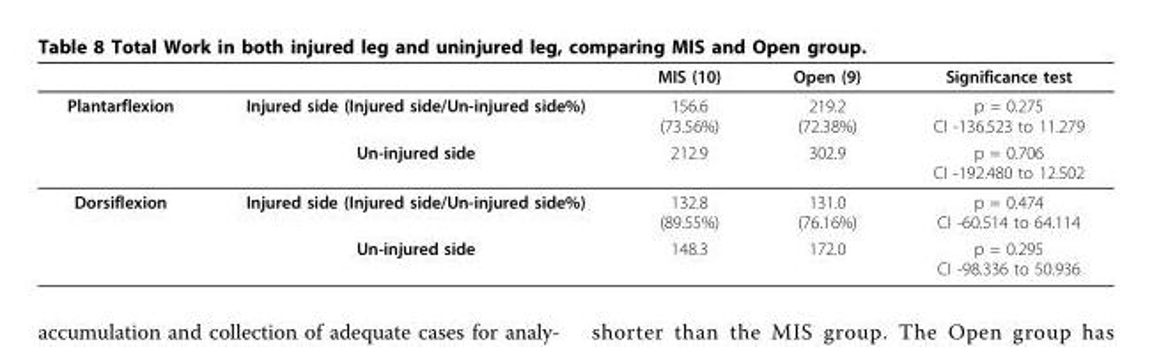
<table><thead><tr><td></td><td></td><td>MIS (10)</td><td>Open (9)</td><td>Significance test</td></tr></thead><tbody><tr><td rowspan="2">Plantarflexion</td><td>Injured side (Injured side/Un-injured side%)</td><td>156.6 (73.56%)</td><td>219.2 (72.38%)</td><td>p = 0.275 CI -136.523 to 11.279</td></tr><tr><td>Un-injured side</td><td>212.9</td><td>302.9</td><td>p = 0.706 CI -192.480 to 12.502</td></tr><tr><td rowspan="2">Dorsiflexion</td><td>Injured side (Injured side/Un-injured side%)</td><td>132.8 (89.55%)</td><td>131.0 (76.16%)</td><td>p = 0.474 CI -60.514 to 64.114</td></tr><tr><td>Un-injured side</td><td>148.3</td><td>172.0</td><td>p = 0.295 CI -98.336 to 50.936</td></tr></tbody></table>